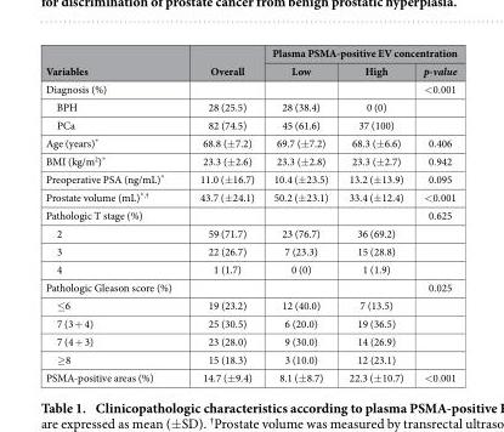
<table><thead><tr><td rowspan="2">Variables</td><td rowspan="2">Overall</td><td colspan="3">Plasma PSMA-positive EV concentration</td></tr><tr><td>Low</td><td>High</td><td>p-value</td></tr></thead><tbody><tr><td>Diagnosis (%)</td><td></td><td></td><td></td><td>&lt;0.001</td></tr><tr><td>BPH</td><td>28 (25.5)</td><td>28 (38.4)</td><td>0 (0)</td><td></td></tr><tr><td>PCa</td><td>82 (74.5)</td><td>45 (61.6)</td><td>37 (100)</td><td></td></tr><tr><td>Age (years)*</td><td>68.8 (±7.2)</td><td>69.7 (±7.2)</td><td>68.3 (±6.6)</td><td>0.406</td></tr><tr><td>BMI (kg/m<sup>2</sup>)*</td><td>23.3 (±2.6)</td><td>23.3 (±2.8)</td><td>23.3 (±2.7)</td><td>0.942</td></tr><tr><td>Preoperative PSA (ng/mL)*</td><td>11.0 (±16.7)</td><td>10.4 (±23.5)</td><td>13.2 (±13.9)</td><td>0.095</td></tr><tr><td>Prostate volume (mL)*,†</td><td>43.7 (±24.1)</td><td>50.2 (±23.1)</td><td>33.4 (±12.4)</td><td>&lt;0.001</td></tr><tr><td>Pathologic T stage (%)</td><td></td><td></td><td></td><td>0.625</td></tr><tr><td>2</td><td>59 (71.7)</td><td>23 (76.7)</td><td>36 (69.2)</td><td></td></tr><tr><td>3</td><td>22 (26.7)</td><td>7 (23.3)</td><td>15 (28.8)</td><td></td></tr><tr><td>4</td><td>1 (1.7)</td><td>0 (0)</td><td>1 (1.9)</td><td></td></tr><tr><td>Pathologic Gleason score (%)</td><td></td><td></td><td></td><td>0.025</td></tr><tr><td>≤6</td><td>19 (23.2)</td><td>12 (40.0)</td><td>7 (13.5)</td><td></td></tr><tr><td>7 (3 + 4)</td><td>25 (30.5)</td><td>6 (20.0)</td><td>19 (36.5)</td><td></td></tr><tr><td>7 (4 + 3)</td><td>23 (28.0)</td><td>9 (30.0)</td><td>14 (26.9)</td><td></td></tr><tr><td>≥8</td><td>15 (18.3)</td><td>3 (10.0)</td><td>12 (23.1)</td><td></td></tr><tr><td>PSMA-positive areas (%)</td><td>14.7 (±9.4)</td><td>8.1 (±8.7)</td><td>22.3 (±10.7)</td><td>&lt;0.001</td></tr></tbody></table>